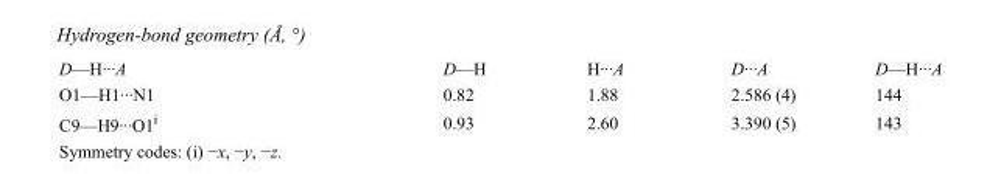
<table><tbody><tr><td>D—H···A</td><td>D—H</td><td>H···A</td><td>D···A</td><td>D—H···A</td></tr><tr><td>O1—H1···N1</td><td>0.82</td><td>1.88</td><td>2.586 (4)</td><td>144</td></tr><tr><td>C9—H9···O1<sup>i</sup></td><td>0.93</td><td>2.60</td><td>3.390 (5)</td><td>143</td></tr></tbody></table>